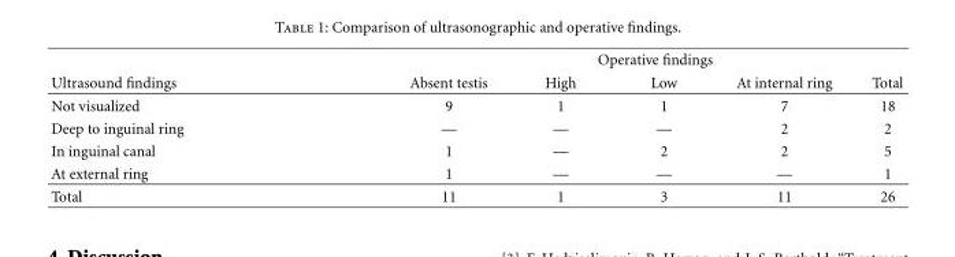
<table><thead><tr><td rowspan="2">Ultrasound findings</td><td colspan="5">Operative findings</td></tr><tr><td>Absent testis</td><td>High</td><td>Low</td><td>At internal ring</td><td>Total</td></tr></thead><tbody><tr><td>Not visualized</td><td>9</td><td>1</td><td>1</td><td>7</td><td>18</td></tr><tr><td>Deep to inguinal ring</td><td>—</td><td>—</td><td>—</td><td>2</td><td>2</td></tr><tr><td>In inguinal canal</td><td>1</td><td>—</td><td>2</td><td>2</td><td>5</td></tr><tr><td>At external ring</td><td>1</td><td>—</td><td>—</td><td>—</td><td>1</td></tr><tr><td>Total</td><td>11</td><td>1</td><td>3</td><td>11</td><td>26</td></tr></tbody></table>